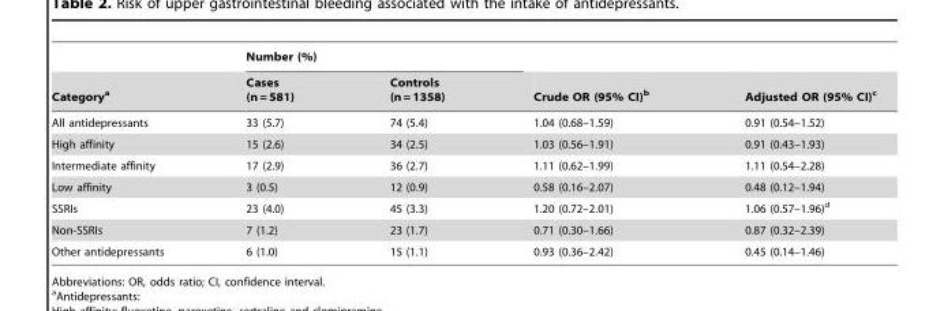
<table><thead><tr><td rowspan="2">Category<sup>a</sup></td><td colspan="2">Number (%)</td><td rowspan="2">Crude OR (95% CI)<sup>b</sup></td><td rowspan="2">Adjusted OR (95% CI)<sup>c</sup></td></tr><tr><td>Cases (n = 581)</td><td>Controls (n = 1358)</td></tr></thead><tbody><tr><td>All antidepressants</td><td>33 (5.7)</td><td>74 (5.4)</td><td>1.04 (0.68–1.59)</td><td>0.91 (0.54–1.52)</td></tr><tr><td>High affinity</td><td>15 (2.6)</td><td>34 (2.5)</td><td>1.03 (0.56–1.91)</td><td>0.91 (0.43–1.93)</td></tr><tr><td>Intermediate affinity</td><td>17 (2.9)</td><td>36 (2.7)</td><td>1.11 (0.62–1.99)</td><td>1.11 (0.54–2.28)</td></tr><tr><td>Low affinity</td><td>3 (0.5)</td><td>12 (0.9)</td><td>0.58 (0.16–2.07)</td><td>0.48 (0.12–1.94)</td></tr><tr><td>SSRIs</td><td>23 (4.0)</td><td>45 (3.3)</td><td>1.20 (0.72–2.01)</td><td>1.06 (0.57–1.96)<sup>d</sup></td></tr><tr><td>Non-SSRIs</td><td>7 (1.2)</td><td>23 (1.7)</td><td>0.71 (0.30–1.66)</td><td>0.87 (0.32–2.39)</td></tr><tr><td>Other antidepressants</td><td>6 (1.0)</td><td>15 (1.1)</td><td>0.93 (0.36–2.42)</td><td>0.45 (0.14–1.46)</td></tr></tbody></table>